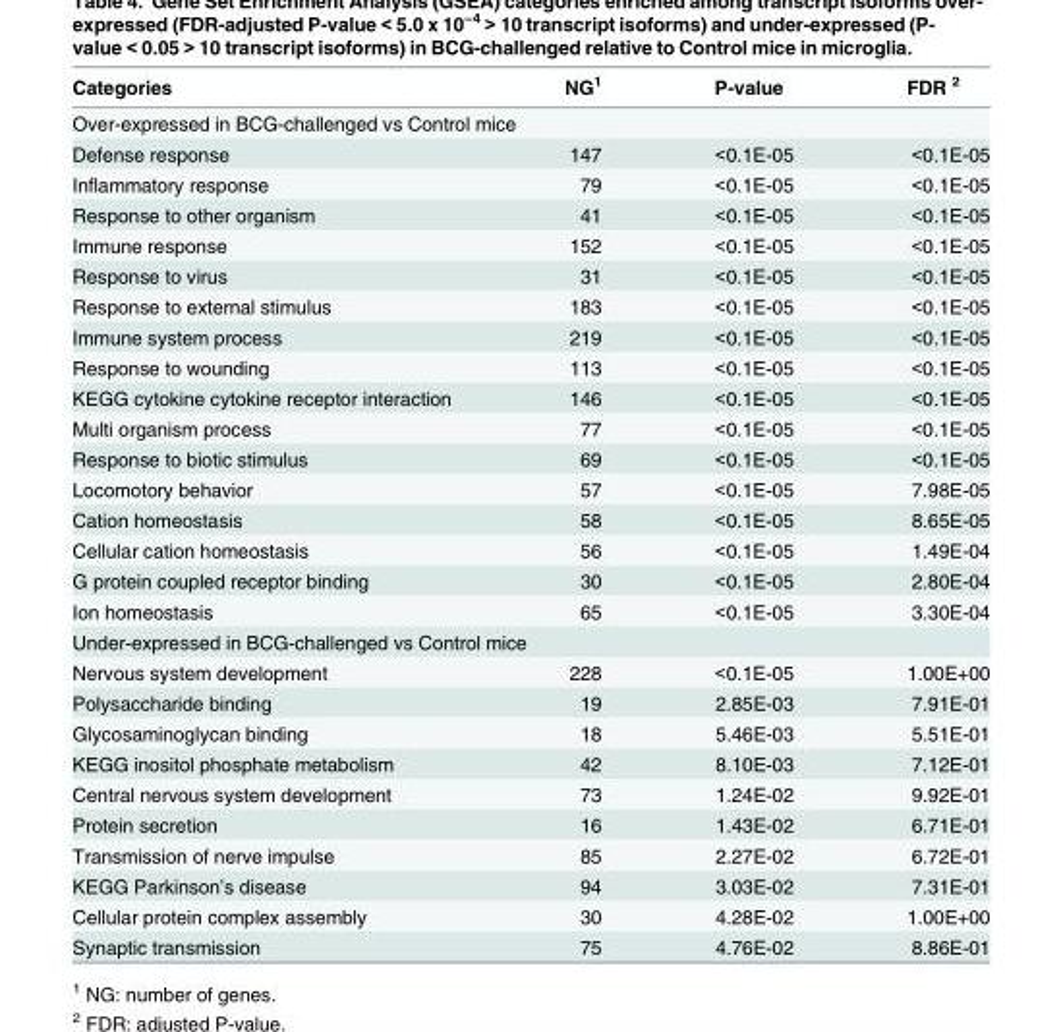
<table><thead><tr><td>Categories</td><td>NG<sup>1</sup></td><td>P-value</td><td>FDR <sup>2</sup></td></tr></thead><tbody><tr><td colspan="4">Over-expressed in BCG-challenged vs Control mice</td></tr><tr><td>Defense response</td><td>147</td><td>&lt;0.1E-05</td><td>&lt;0.1E-05</td></tr><tr><td>Inflammatory response</td><td>79</td><td>&lt;0.1E-05</td><td>&lt;0.1E-05</td></tr><tr><td>Response to other organism</td><td>41</td><td>&lt;0.1E-05</td><td>&lt;0.1E-05</td></tr><tr><td>Immune response</td><td>152</td><td>&lt;0.1E-05</td><td>&lt;0.1E-05</td></tr><tr><td>Response to virus</td><td>31</td><td>&lt;0.1E-05</td><td>&lt;0.1E-05</td></tr><tr><td>Response to external stimulus</td><td>183</td><td>&lt;0.1E-05</td><td>&lt;0.1E-05</td></tr><tr><td>Immune system process</td><td>219</td><td>&lt;0.1E-05</td><td>&lt;0.1E-05</td></tr><tr><td>Response to wounding</td><td>113</td><td>&lt;0.1E-05</td><td>&lt;0.1E-05</td></tr><tr><td>KEGG cytokine cytokine receptor interaction</td><td>146</td><td>&lt;0.1E-05</td><td>&lt;0.1E-05</td></tr><tr><td>Multi organism process</td><td>77</td><td>&lt;0.1E-05</td><td>&lt;0.1E-05</td></tr><tr><td>Response to biotic stimulus</td><td>69</td><td>&lt;0.1E-05</td><td>&lt;0.1E-05</td></tr><tr><td>Locomotory behavior</td><td>57</td><td>&lt;0.1E-05</td><td>7.98E-05</td></tr><tr><td>Cation homeostasis</td><td>58</td><td>&lt;0.1E-05</td><td>8.65E-05</td></tr><tr><td>Cellular cation homeostasis</td><td>56</td><td>&lt;0.1E-05</td><td>1.49E-04</td></tr><tr><td>G protein coupled receptor binding</td><td>30</td><td>&lt;0.1E-05</td><td>2.80E-04</td></tr><tr><td>Ion homeostasis</td><td>65</td><td>&lt;0.1E-05</td><td>3.30E-04</td></tr><tr><td colspan="4">Under-expressed in BCG-challenged vs Control mice</td></tr><tr><td>Nervous system development</td><td>228</td><td>&lt;0.1E-05</td><td>1.00E+00</td></tr><tr><td>Polysaccharide binding</td><td>19</td><td>2.85E-03</td><td>7.91E-01</td></tr><tr><td>Glycosaminoglycan binding</td><td>18</td><td>5.46E-03</td><td>5.51E-01</td></tr><tr><td>KEGG inositol phosphate metabolism</td><td>42</td><td>8.10E-03</td><td>7.12E-01</td></tr><tr><td>Central nervous system development</td><td>73</td><td>1.24E-02</td><td>9.92E-01</td></tr><tr><td>Protein secretion</td><td>16</td><td>1.43E-02</td><td>6.71E-01</td></tr><tr><td>Transmission of nerve impulse</td><td>85</td><td>2.27E-02</td><td>6.72E-01</td></tr><tr><td>KEGG Parkinson’s disease</td><td>94</td><td>3.03E-02</td><td>7.31E-01</td></tr><tr><td>Cellular protein complex assembly</td><td>30</td><td>4.28E-02</td><td>1.00E+00</td></tr><tr><td>Synaptic transmission</td><td>75</td><td>4.76E-02</td><td>8.86E-01</td></tr></tbody></table>